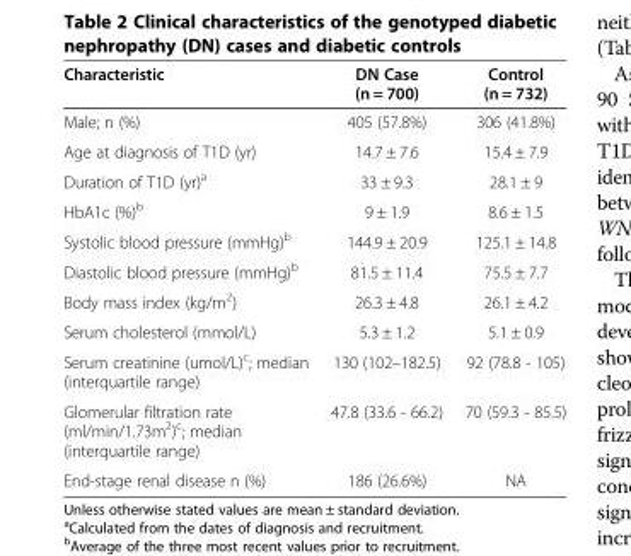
<table><thead><tr><td>Characteristic</td><td>DN Case (n = 700)</td><td>Control (n = 732)</td></tr></thead><tbody><tr><td>Male; n (%)</td><td>405 (57.8%)</td><td>306 (41.8%)</td></tr><tr><td>Age at diagnosis of T1D (yr)</td><td>14.7 ± 7.6</td><td>15.4 ± 7.9</td></tr><tr><td>Duration of T1D (yr)<sup>a</sup></td><td>33 ± 9.3</td><td>28.1 ± 9</td></tr><tr><td>HbA1c (%)<sup>b</sup></td><td>9 ± 1.9</td><td>8.6 ± 1.5</td></tr><tr><td>Systolic blood pressure (mmHg)<sup>b</sup></td><td>144.9 ± 20.9</td><td>125.1 ± 14.8</td></tr><tr><td>Diastolic blood pressure (mmHg)<sup>b</sup></td><td>81.5 ± 11.4</td><td>75.5 ± 7.7</td></tr><tr><td>Body mass index (kg/m<sup>2</sup>)</td><td>26.3 ± 4.8</td><td>26.1 ± 4.2</td></tr><tr><td>Serum cholesterol (mmol/L)</td><td>5.3 ± 1.2</td><td>5.1 ± 0.9</td></tr><tr><td>Serum creatinine (umol/L)<sup>c</sup>; median (interquartile range)</td><td>130 (102–182.5)</td><td>92 (78.8 - 105)</td></tr><tr><td>Glomerular filtration rate (ml/min/1.73m<sup>2</sup>)<sup>c</sup>; median (interquartile range)</td><td>47.8 (33.6 - 66.2)</td><td>70 (59.3 - 85.5)</td></tr><tr><td>End-stage renal disease n (%)</td><td>186 (26.6%)</td><td>NA</td></tr></tbody></table>